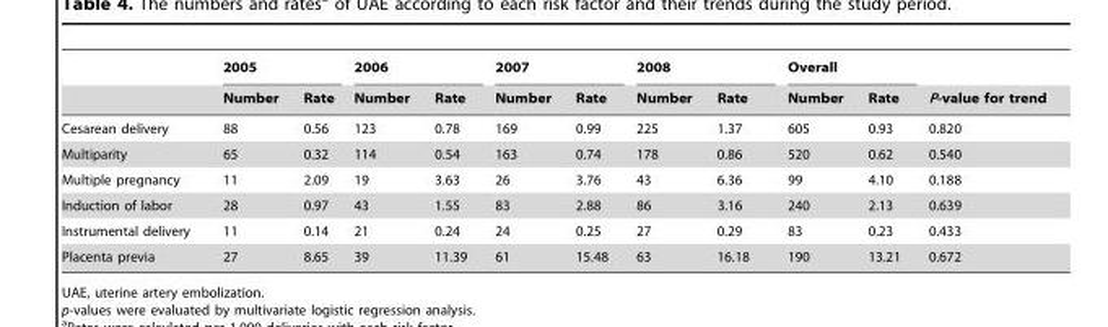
<table><thead><tr><td rowspan="2"></td><td colspan="2">2005</td><td colspan="2">2006</td><td colspan="2">2007</td><td colspan="2">2008</td><td colspan="2">Overall</td><td rowspan="2">P-value for trend</td></tr><tr><td>Number</td><td>Rate</td><td>Number</td><td>Rate</td><td>Number</td><td>Rate</td><td>Number</td><td>Rate</td><td>Number</td><td>Rate</td></tr></thead><tbody><tr><td>Cesarean delivery</td><td>88</td><td>0.56</td><td>123</td><td>0.78</td><td>169</td><td>0.99</td><td>225</td><td>1.37</td><td>605</td><td>0.93</td><td>0.820</td></tr><tr><td>Multiparity</td><td>65</td><td>0.32</td><td>114</td><td>0.54</td><td>163</td><td>0.74</td><td>178</td><td>0.86</td><td>520</td><td>0.62</td><td>0.540</td></tr><tr><td>Multiple pregnancy</td><td>11</td><td>2.09</td><td>19</td><td>3.63</td><td>26</td><td>3.76</td><td>43</td><td>6.36</td><td>99</td><td>4.10</td><td>0.188</td></tr><tr><td>Induction of labor</td><td>28</td><td>0.97</td><td>43</td><td>1.55</td><td>83</td><td>2.88</td><td>86</td><td>3.16</td><td>240</td><td>2.13</td><td>0.639</td></tr><tr><td>Instrumental delivery</td><td>11</td><td>0.14</td><td>21</td><td>0.24</td><td>24</td><td>0.25</td><td>27</td><td>0.29</td><td>83</td><td>0.23</td><td>0.433</td></tr><tr><td>Placenta previa</td><td>27</td><td>8.65</td><td>39</td><td>11.39</td><td>61</td><td>15.48</td><td>63</td><td>16.18</td><td>190</td><td>13.21</td><td>0.672</td></tr></tbody></table>